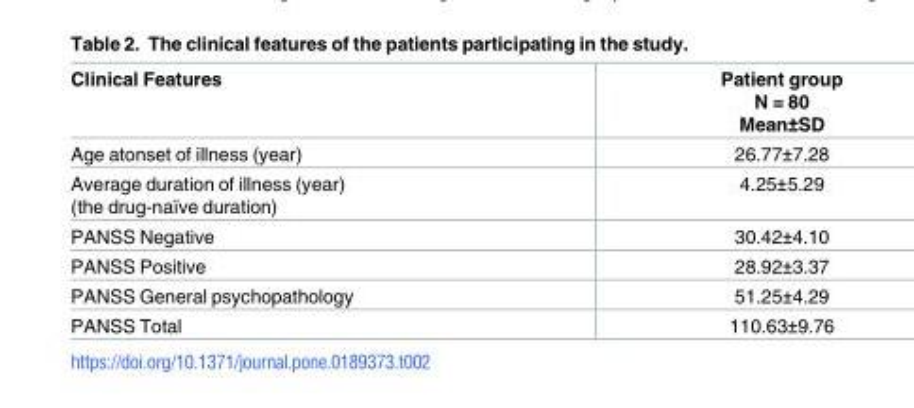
<table><thead><tr><td>Clinical Features</td><td>Patient group N = 80 Mean±SD</td></tr></thead><tbody><tr><td>Age atonset of illness (year)</td><td>26.77±7.28</td></tr><tr><td>Average duration of illness (year) (the drug-naïve duration)</td><td>4.25±5.29</td></tr><tr><td>PANSS Negative</td><td>30.42±4.10</td></tr><tr><td>PANSS Positive</td><td>28.92±3.37</td></tr><tr><td>PANSS General psychopathology</td><td>51.25±4.29</td></tr><tr><td>PANSS Total</td><td>110.63±9.76</td></tr></tbody></table>